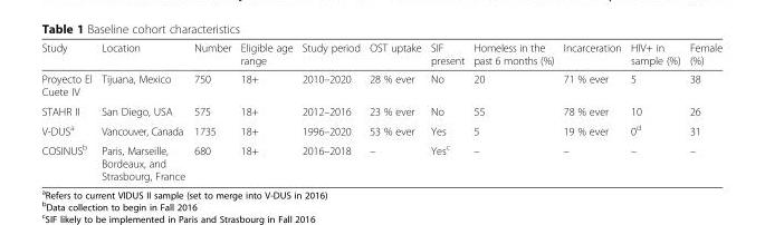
<table><thead><tr><td>Study</td><td>Location</td><td>Number</td><td>Eligible age range</td><td>Study period</td><td>OST uptake</td><td>SIF present</td><td>Homeless in the past 6 months (%)</td><td>Incarceration</td><td>HIV+ in sample (%)</td><td>Female (%)</td></tr></thead><tbody><tr><td>Proyecto El Cuete IV</td><td>Tijuana, Mexico</td><td>750</td><td>18+</td><td>2010–2020</td><td>28 % ever</td><td>No</td><td>20</td><td>71 % ever</td><td>5</td><td>38</td></tr><tr><td>STAHR II</td><td>San Diego, USA</td><td>575</td><td>18+</td><td>2012–2016</td><td>23 % ever</td><td>No</td><td>55</td><td>78 % ever</td><td>10</td><td>26</td></tr><tr><td>V-DUS<sup>a</sup></td><td>Vancouver, Canada</td><td>1735</td><td>18+</td><td>1996–2020</td><td>53 % ever</td><td>Yes</td><td>5</td><td>19 % ever</td><td>0<sup>d</sup></td><td>31</td></tr><tr><td>COSINUS<sup>b</sup></td><td>Paris, Marseille, Bordeaux, and Strasbourg, France</td><td>680</td><td>18+</td><td>2016–2018</td><td>–</td><td>Yes<sup>c</sup></td><td>–</td><td>–</td><td>–</td><td>–</td></tr></tbody></table>